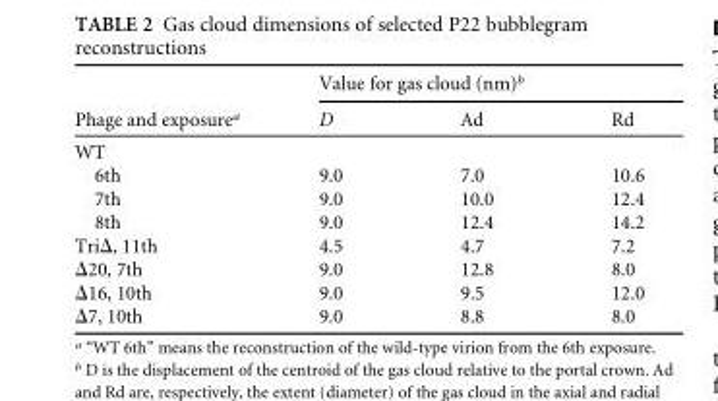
<table><thead><tr><td rowspan="2">Phage and exposure<sup>a</sup></td><td colspan="3">Value for gas cloud (nm)<sup>b</sup></td></tr><tr><td>D</td><td>Ad</td><td>Rd</td></tr></thead><tbody><tr><td colspan="4">WT</td></tr><tr><td>6th</td><td>9.0</td><td>7.0</td><td>10.6</td></tr><tr><td>7th</td><td>9.0</td><td>10.0</td><td>12.4</td></tr><tr><td>8th</td><td>9.0</td><td>12.4</td><td>14.2</td></tr><tr><td>TriΔ, 11th</td><td>4.5</td><td>4.7</td><td>7.2</td></tr><tr><td>Δ20, 7th</td><td>9.0</td><td>12.8</td><td>8.0</td></tr><tr><td>Δ16, 10th</td><td>9.0</td><td>9.5</td><td>12.0</td></tr><tr><td>Δ7, 10th</td><td>9.0</td><td>8.8</td><td>8.0</td></tr></tbody></table>